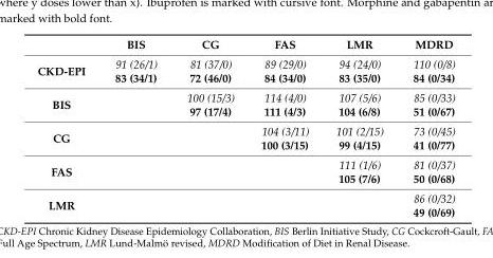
<table><thead><tr><td></td><td>BIS</td><td>CG</td><td>FAS</td><td>LMR</td><td>MDRD</td></tr></thead><tbody><tr><td>CKD-EPI</td><td>91 (26/1) 83 (34/1)</td><td>81 (37/0) 72 (46/0)</td><td>89 (29/0) 84 (34/0)</td><td>94 (24/0) 83 (35/0)</td><td>110 (0/8) 84 (0/34)</td></tr><tr><td>BIS</td><td></td><td>100 (15/3) 97 (17/4)</td><td>114 (4/0) 111 (4/3)</td><td>107 (5/6) 104 (6/8)</td><td>85 (0/33) 51 (0/67)</td></tr><tr><td>CG</td><td></td><td></td><td>104 (3/11) 100 (3/15)</td><td>101 (2/15) 99 (4/15)</td><td>73 (0/45) 41 (0/77)</td></tr><tr><td>FAS</td><td></td><td></td><td></td><td>111 (1/6) 105 (7/6)</td><td>81 (0/37) 50 (0/68)</td></tr><tr><td>LMR</td><td></td><td></td><td></td><td></td><td>86 (0/32) 49 (0/69)</td></tr></tbody></table>